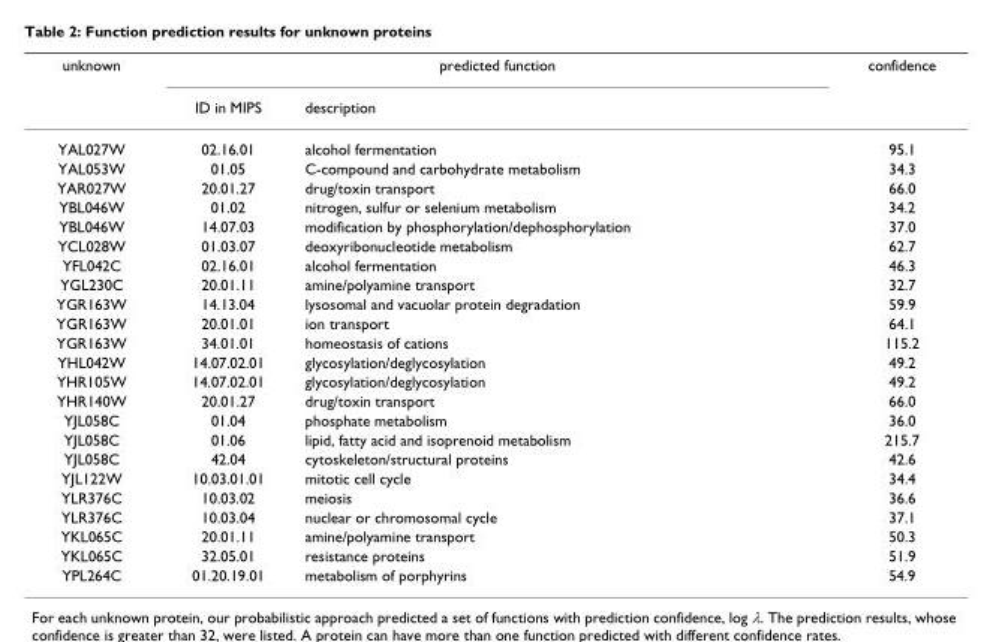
<table><thead><tr><td rowspan="2">unknown</td><td colspan="2">predicted function</td><td rowspan="2">confidence</td></tr><tr><td>ID in MIPS</td><td>description</td></tr></thead><tbody><tr><td>YAL027W</td><td>02.16.01</td><td>alcohol fermentation</td><td>95.1</td></tr><tr><td>YAL053W</td><td>01.05</td><td>C-compound and carbohydrate metabolism</td><td>34.3</td></tr><tr><td>YAR027W</td><td>20.01.27</td><td>drug/toxin transport</td><td>66.0</td></tr><tr><td>YBL046W</td><td>01.02</td><td>nitrogen, sulfur or selenium metabolism</td><td>34.2</td></tr><tr><td>YBL046W</td><td>14.07.03</td><td>modification by phosphorylation/dephosphorylation</td><td>37.0</td></tr><tr><td>YCL028W</td><td>01.03.07</td><td>deoxyribonucleotide metabolism</td><td>62.7</td></tr><tr><td>YFL042C</td><td>02.16.01</td><td>alcohol fermentation</td><td>46.3</td></tr><tr><td>YGL230C</td><td>20.01.11</td><td>amine/polyamine transport</td><td>32.7</td></tr><tr><td>YGR163W</td><td>14.13.04</td><td>lysosomal and vacuolar protein degradation</td><td>59.9</td></tr><tr><td>YGR163W</td><td>20.01.01</td><td>ion transport</td><td>64.1</td></tr><tr><td>YGR163W</td><td>34.01.01</td><td>homeostasis of cations</td><td>115.2</td></tr><tr><td>YHL042W</td><td>14.07.02.01</td><td>glycosylation/deglycosylation</td><td>49.2</td></tr><tr><td>YHR105W</td><td>14.07.02.01</td><td>glycosylation/deglycosylation</td><td>49.2</td></tr><tr><td>YHR140W</td><td>20.01.27</td><td>drug/toxin transport</td><td>66.0</td></tr><tr><td>YJL058C</td><td>01.04</td><td>phosphate metabolism</td><td>36.0</td></tr><tr><td>YJL058C</td><td>01.06</td><td>lipid, fatty acid and isoprenoid metabolism</td><td>215.7</td></tr><tr><td>YJL058C</td><td>42.04</td><td>cytoskeleton/structural proteins</td><td>42.6</td></tr><tr><td>YJL122W</td><td>10.03.01.01</td><td>mitotic cell cycle</td><td>34.4</td></tr><tr><td>YLR376C</td><td>10.03.02</td><td>meiosis</td><td>36.6</td></tr><tr><td>YLR376C</td><td>10.03.04</td><td>nuclear or chromosomal cycle</td><td>37.1</td></tr><tr><td>YKL065C</td><td>20.01.11</td><td>amine/polyamine transport</td><td>50.3</td></tr><tr><td>YKL065C</td><td>32.05.01</td><td>resistance proteins</td><td>51.9</td></tr><tr><td>YPL264C</td><td>01.20.19.01</td><td>metabolism of porphyrins</td><td>54.9</td></tr></tbody></table>